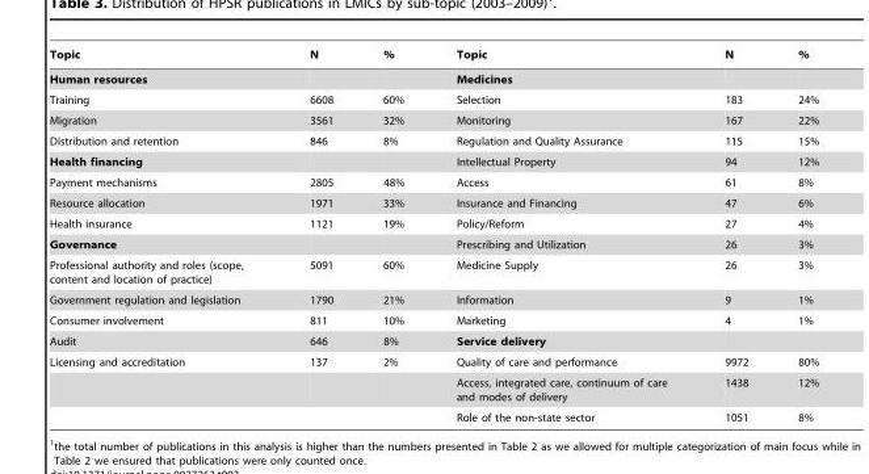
<table><thead><tr><td>Topic</td><td>N</td><td>%</td><td>Topic</td><td>N</td><td>%</td></tr></thead><tbody><tr><td>Human resources</td><td></td><td></td><td>Medicines</td><td></td><td></td></tr><tr><td>Training</td><td>6608</td><td>60%</td><td>Selection</td><td>183</td><td>24%</td></tr><tr><td>Migration</td><td>3561</td><td>32%</td><td>Monitoring</td><td>167</td><td>22%</td></tr><tr><td>Distribution and retention</td><td>846</td><td>8%</td><td>Regulation and Quality Assurance</td><td>115</td><td>15%</td></tr><tr><td>Health financing</td><td></td><td></td><td>Intellectual Property</td><td>94</td><td>12%</td></tr><tr><td>Payment mechanisms</td><td>2805</td><td>48%</td><td>Access</td><td>61</td><td>8%</td></tr><tr><td>Resource allocation</td><td>1971</td><td>33%</td><td>Insurance and Financing</td><td>47</td><td>6%</td></tr><tr><td>Health insurance</td><td>1121</td><td>19%</td><td>Policy/Reform</td><td>27</td><td>4%</td></tr><tr><td>Governance</td><td></td><td></td><td>Prescribing and Utilization</td><td>26</td><td>3%</td></tr><tr><td>Professional authority and roles (scope, content and location of practice)</td><td>5091</td><td>60%</td><td>Medicine Supply</td><td>26</td><td>3%</td></tr><tr><td>Government regulation and legislation</td><td>1790</td><td>21%</td><td>Information</td><td>9</td><td>1%</td></tr><tr><td>Consumer involvement</td><td>811</td><td>10%</td><td>Marketing</td><td>4</td><td>1%</td></tr><tr><td>Audit</td><td>646</td><td>8%</td><td>Service delivery</td><td></td><td></td></tr><tr><td rowspan="3">Licensing and accreditation</td><td>137</td><td>2%</td><td>Quality of care and performance</td><td>9972</td><td>80%</td></tr><tr><td></td><td></td><td>Access, integrated care, continuum of care and modes of delivery</td><td>1438</td><td>12%</td></tr><tr><td></td><td></td><td>Role of the non-state sector</td><td>1051</td><td>8%</td></tr></tbody></table>